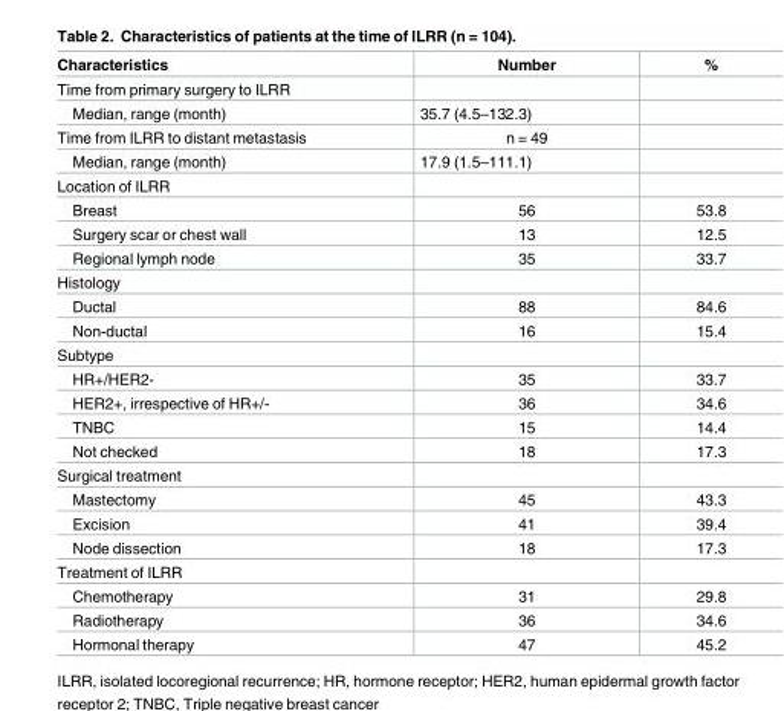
<table><thead><tr><td>Characteristics</td><td>Number</td><td>%</td></tr></thead><tbody><tr><td colspan="3">Time from primary surgery to ILRR</td></tr><tr><td>Median, range (month)</td><td>35.7 (4.5–132.3)</td><td></td></tr><tr><td>Time from ILRR to distant metastasis</td><td>n = 49</td><td></td></tr><tr><td>Median, range (month)</td><td>17.9 (1.5–111.1)</td><td></td></tr><tr><td colspan="3">Location of ILRR</td></tr><tr><td>Breast</td><td>56</td><td>53.8</td></tr><tr><td>Surgery scar or chest wall</td><td>13</td><td>12.5</td></tr><tr><td>Regional lymph node</td><td>35</td><td>33.7</td></tr><tr><td colspan="3">Histology</td></tr><tr><td>Ductal</td><td>88</td><td>84.6</td></tr><tr><td>Non-ductal</td><td>16</td><td>15.4</td></tr><tr><td colspan="3">Subtype</td></tr><tr><td>HR+/HER2-</td><td>35</td><td>33.7</td></tr><tr><td>HER2+, irrespective of HR+/-</td><td>36</td><td>34.6</td></tr><tr><td>TNBC</td><td>15</td><td>14.4</td></tr><tr><td>Not checked</td><td>18</td><td>17.3</td></tr><tr><td colspan="3">Surgical treatment</td></tr><tr><td>Mastectomy</td><td>45</td><td>43.3</td></tr><tr><td>Excision</td><td>41</td><td>39.4</td></tr><tr><td>Node dissection</td><td>18</td><td>17.3</td></tr><tr><td colspan="3">Treatment of ILRR</td></tr><tr><td>Chemotherapy</td><td>31</td><td>29.8</td></tr><tr><td>Radiotherapy</td><td>36</td><td>34.6</td></tr><tr><td>Hormonal therapy</td><td>47</td><td>45.2</td></tr></tbody></table>